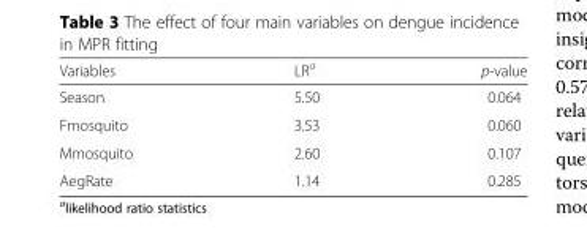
<table><thead><tr><td>Variables</td><td>LR<sup>a</sup></td><td>p-value</td></tr></thead><tbody><tr><td>Season</td><td>5.50</td><td>0.064</td></tr><tr><td>Fmosquito</td><td>3.53</td><td>0.060</td></tr><tr><td>Mmosquito</td><td>2.60</td><td>0.107</td></tr><tr><td>AegRate</td><td>1.14</td><td>0.285</td></tr></tbody></table>